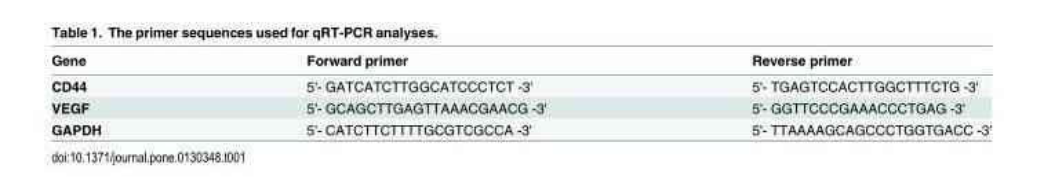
<table><thead><tr><td>Gene</td><td>Forward primer</td><td>Reverse primer</td></tr></thead><tbody><tr><td>CD44</td><td>5&#x27;- GATCATCTTGGCATCCCTCT -3&#x27;</td><td>5&#x27;- TGAGTCCACTTGGCTTTCTG -3&#x27;</td></tr><tr><td>VEGF</td><td>5&#x27;- GCAGCTTGAGTTAAACGAACG -3&#x27;</td><td>5&#x27;- GGTTCCCGAAACCCTGAG -3&#x27;</td></tr><tr><td>GAPDH</td><td>5&#x27;- CATCTTCTTTTGCGTCGCCA -3&#x27;</td><td>5&#x27;- TTAAAAGCAGCCCTGGTGACC -3&#x27;</td></tr></tbody></table>